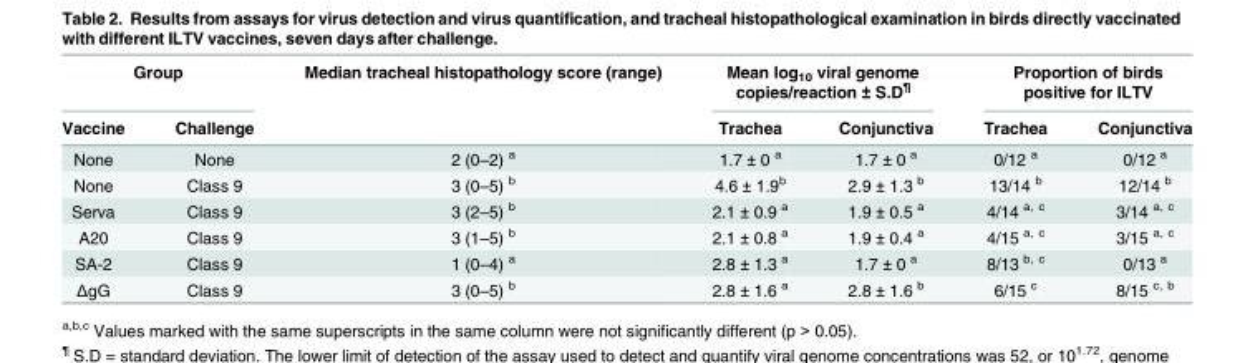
<table><thead><tr><td colspan="2">Group</td><td rowspan="2">Median tracheal histopathology score (range)</td><td colspan="2">Mean log<sub>10</sub> viral genome copies/reaction ± S.D<sup>¶</sup></td><td colspan="2">Proportion of birds positive for ILTV</td></tr><tr><td>Vaccine</td><td>Challenge</td><td>Trachea</td><td>Conjunctiva</td><td>Trachea</td><td>Conjunctiva</td></tr></thead><tbody><tr><td>None</td><td>None</td><td>2 (0–2) <sup>a</sup></td><td>1.7 ± 0 <sup>a</sup></td><td>1.7 ± 0 <sup>a</sup></td><td>0/12 <sup>a</sup></td><td>0/12 <sup>a</sup></td></tr><tr><td>None</td><td>Class 9</td><td>3 (0–5) <sup>b</sup></td><td>4.6 ± 1.9<sup>b</sup></td><td>2.9 ± 1.3 <sup>b</sup></td><td>13/14 <sup>b</sup></td><td>12/14 <sup>b</sup></td></tr><tr><td>Serva</td><td>Class 9</td><td>3 (2–5) <sup>b</sup></td><td>2.1 ± 0.9 <sup>a</sup></td><td>1.9 ± 0.5 <sup>a</sup></td><td>4/14 <sup>a, c</sup></td><td>3/14 <sup>a, c</sup></td></tr><tr><td>A20</td><td>Class 9</td><td>3 (1–5) <sup>b</sup></td><td>2.1 ± 0.8 <sup>a</sup></td><td>1.9 ± 0.4 <sup>a</sup></td><td>4/15 <sup>a, c</sup></td><td>3/15 <sup>a, c</sup></td></tr><tr><td>SA-2</td><td>Class 9</td><td>1 (0–4) <sup>a</sup></td><td>2.8 ± 1.3 <sup>a</sup></td><td>1.7 ± 0 <sup>a</sup></td><td>8/13 <sup>b, c</sup></td><td>0/13 <sup>a</sup></td></tr><tr><td>ΔgG</td><td>Class 9</td><td>3 (0–5) <sup>b</sup></td><td>2.8 ± 1.6 <sup>a</sup></td><td>2.8 ± 1.6 <sup>b</sup></td><td>6/15 <sup>c</sup></td><td>8/15 <sup>c, b</sup></td></tr></tbody></table>